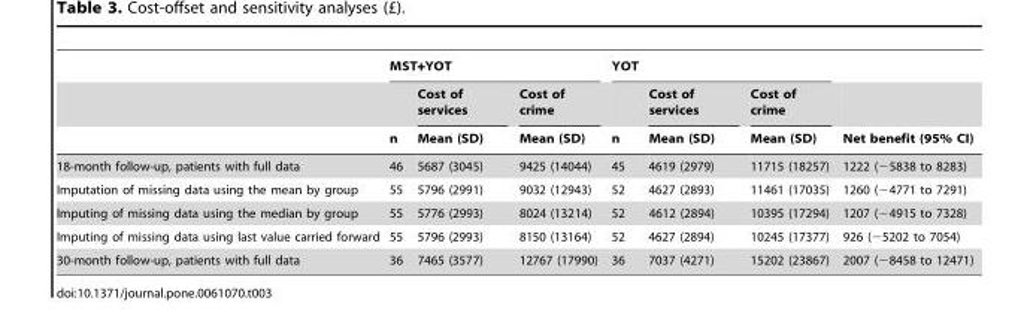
<table><thead><tr><td rowspan="3"></td><td colspan="3">MST+YOT</td><td colspan="3">YOT</td><td rowspan="3">Net benefit (95% CI)</td></tr><tr><td rowspan="2">n</td><td rowspan="2">Cost of services Mean (SD)</td><td rowspan="2">Cost of crime Mean (SD)</td><td rowspan="2">n</td><td rowspan="2">Cost of services Mean (SD)</td><td rowspan="2">Cost of crime Mean (SD)</td></tr><tr></tr></thead><tbody><tr><td>18-month follow-up, patients with full data</td><td>46</td><td>5687 (3045)</td><td>9425 (14044)</td><td>45</td><td>4619 (2979)</td><td>11715 (18257)</td><td>1222 (−5838 to 8283)</td></tr><tr><td>Imputation of missing data using the mean by group</td><td>55</td><td>5796 (2991)</td><td>9032 (12943)</td><td>52</td><td>4627 (2893)</td><td>11461 (17035)</td><td>1260 (−4771 to 7291)</td></tr><tr><td>Imputing of missing data using the median by group</td><td>55</td><td>5776 (2993)</td><td>8024 (13214)</td><td>52</td><td>4612 (2894)</td><td>10395 (17294)</td><td>1207 (−4915 to 7328)</td></tr><tr><td>Imputing of missing data using last value carried forward</td><td>55</td><td>5796 (2993)</td><td>8150 (13164)</td><td>52</td><td>4627 (2894)</td><td>10245 (17377)</td><td>926 (−5202 to 7054)</td></tr><tr><td>30-month follow-up, patients with full data</td><td>36</td><td>7465 (3577)</td><td>12767 (17990)</td><td>36</td><td>7037 (4271)</td><td>15202 (23867)</td><td>2007 (−8458 to 12471)</td></tr></tbody></table>